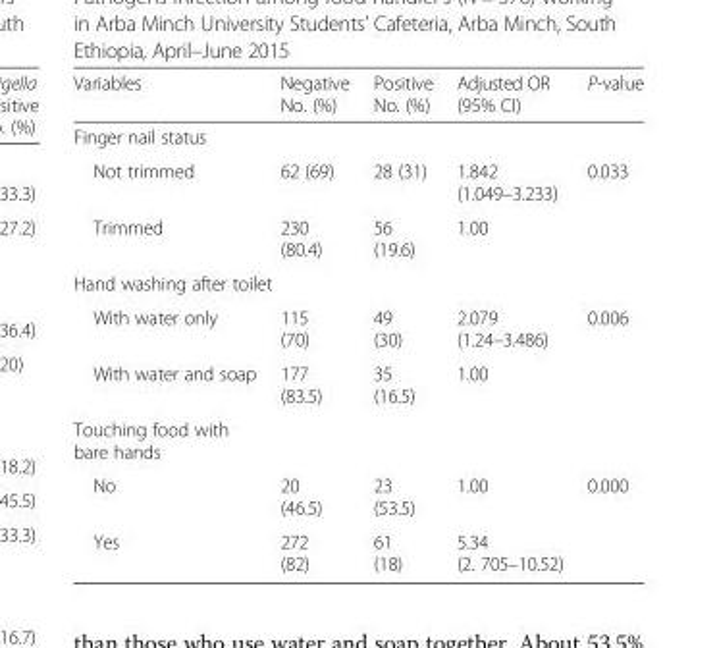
<table><thead><tr><td>Variables</td><td>Negative No. (%)</td><td>Positive No. (%)</td><td>Adjusted OR (95% CI)</td><td>P-value</td></tr></thead><tbody><tr><td colspan="5">Finger nail status</td></tr><tr><td>Not trimmed</td><td>62 (69)</td><td>28 (31)</td><td>1.842 (1.049–3.233)</td><td rowspan="2">0.033</td></tr><tr><td>Trimmed</td><td>230 (80.4)</td><td>56 (19.6)</td><td>1.00</td></tr><tr><td colspan="5">Hand washing after toilet</td></tr><tr><td>With water only</td><td>115 (70)</td><td>49 (30)</td><td>2.079 (1.24–3.486)</td><td rowspan="2">0.006</td></tr><tr><td>With water and soap</td><td>177 (83.5)</td><td>35 (16.5)</td><td>1.00</td></tr><tr><td colspan="5">Touching food with bare hands</td></tr><tr><td>No</td><td>20 (46.5)</td><td>23 (53.5)</td><td>1.00</td><td rowspan="2">0.000</td></tr><tr><td>Yes</td><td>272 (82)</td><td>61 (18)</td><td>5.34 (2. 705–10.52)</td></tr></tbody></table>